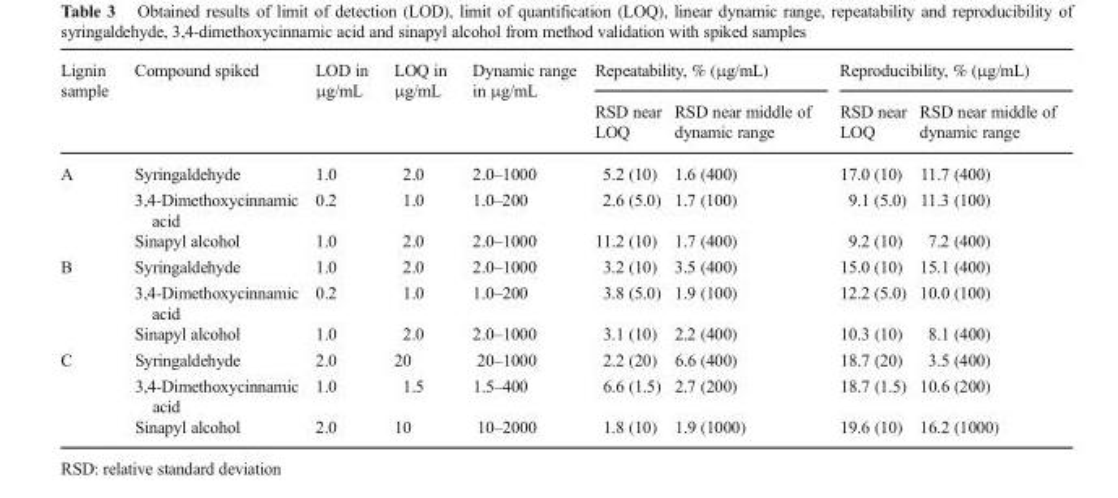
<table><thead><tr><td rowspan="2">Lignin sample</td><td rowspan="2">Compound spiked</td><td rowspan="2">LOD in μg/mL</td><td rowspan="2">LOQ in μg/mL</td><td rowspan="2">Dynamic range in μg/mL</td><td colspan="2">Repeatability, % (μg/mL)</td><td colspan="2">Reproducibility, % (μg/mL)</td></tr><tr><td>RSD near LOQ</td><td>RSD near middle of dynamic range</td><td>RSD near LOQ</td><td>RSD near middle of dynamic range</td></tr></thead><tbody><tr><td rowspan="3">A</td><td>Syringaldehyde</td><td>1.0</td><td>2.0</td><td>2.0–1000</td><td>5.2 (10)</td><td>1.6 (400)</td><td>17.0 (10)</td><td>11.7 (400)</td></tr><tr><td>3,4-Dimethoxycinnamic acid</td><td>0.2</td><td>1.0</td><td>1.0–200</td><td>2.6 (5.0)</td><td>1.7 (100)</td><td>9.1 (5.0)</td><td>11.3 (100)</td></tr><tr><td>Sinapyl alcohol</td><td>1.0</td><td>2.0</td><td>2.0–1000</td><td>11.2 (10)</td><td>1.7 (400)</td><td>9.2 (10)</td><td>7.2 (400)</td></tr><tr><td rowspan="3">B</td><td>Syringaldehyde</td><td>1.0</td><td>2.0</td><td>2.0–1000</td><td>3.2 (10)</td><td>3.5 (400)</td><td>15.0 (10)</td><td>15.1 (400)</td></tr><tr><td>3,4-Dimethoxycinnamic acid</td><td>0.2</td><td>1.0</td><td>1.0–200</td><td>3.8 (5.0)</td><td>1.9 (100)</td><td>12.2 (5.0)</td><td>10.0 (100)</td></tr><tr><td>Sinapyl alcohol</td><td>1.0</td><td>2.0</td><td>2.0–1000</td><td>3.1 (10)</td><td>2.2 (400)</td><td>10.3 (10)</td><td>8.1 (400)</td></tr><tr><td rowspan="3">C</td><td>Syringaldehyde</td><td>2.0</td><td>20</td><td>20–1000</td><td>2.2 (20)</td><td>6.6 (400)</td><td>18.7 (20)</td><td>3.5 (400)</td></tr><tr><td>3,4-Dimethoxycinnamic acid</td><td>1.0</td><td>1.5</td><td>1.5–400</td><td>6.6 (1.5)</td><td>2.7 (200)</td><td>18.7 (1.5)</td><td>10.6 (200)</td></tr><tr><td>Sinapyl alcohol</td><td>2.0</td><td>10</td><td>10–2000</td><td>1.8 (10)</td><td>1.9 (1000)</td><td>19.6 (10)</td><td>16.2 (1000)</td></tr></tbody></table>